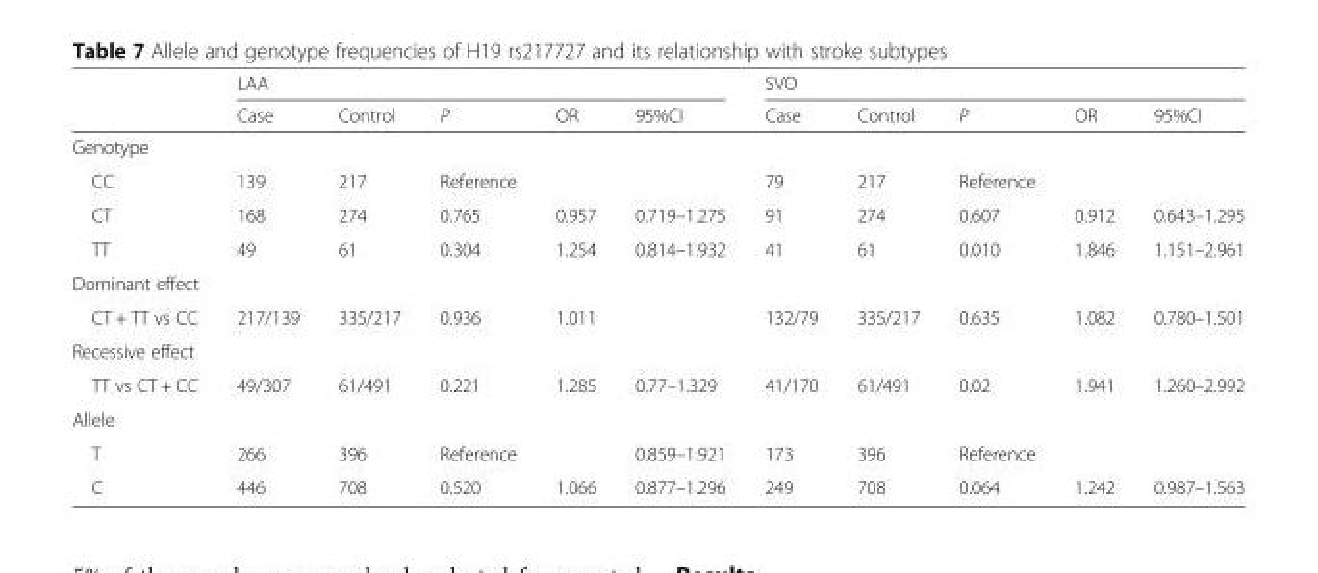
<table><thead><tr><td rowspan="2"></td><td colspan="5">LAA</td><td colspan="5">SVO</td></tr><tr><td>Case</td><td>Control</td><td>P</td><td>OR</td><td>95%CI</td><td>Case</td><td>Control</td><td>P</td><td>OR</td><td>95%CI</td></tr></thead><tbody><tr><td colspan="11">Genotype</td></tr><tr><td>CC</td><td>139</td><td>217</td><td>Reference</td><td></td><td></td><td>79</td><td>217</td><td>Reference</td><td></td><td></td></tr><tr><td>CT</td><td>168</td><td>274</td><td>0.765</td><td>0.957</td><td>0.719–1.275</td><td>91</td><td>274</td><td>0.607</td><td>0.912</td><td>0.643–1.295</td></tr><tr><td>TT</td><td>49</td><td>61</td><td>0.304</td><td>1.254</td><td>0.814–1.932</td><td>41</td><td>61</td><td>0.010</td><td>1.846</td><td>1.151–2.961</td></tr><tr><td colspan="11">Dominant effect</td></tr><tr><td>CT + TT vs CC</td><td>217/139</td><td>335/217</td><td>0.936</td><td>1.011</td><td></td><td>132/79</td><td>335/217</td><td>0.635</td><td>1.082</td><td>0.780–1.501</td></tr><tr><td colspan="11">Recessive effect</td></tr><tr><td>TT vs CT + CC</td><td>49/307</td><td>61/491</td><td>0.221</td><td>1.285</td><td>0.77–1.329</td><td>41/170</td><td>61/491</td><td>0.02</td><td>1.941</td><td>1.260–2.992</td></tr><tr><td colspan="11">Allele</td></tr><tr><td>T</td><td>266</td><td>396</td><td>Reference</td><td></td><td>0.859–1.921</td><td>173</td><td>396</td><td>Reference</td><td></td><td></td></tr><tr><td>C</td><td>446</td><td>708</td><td>0.520</td><td>1.066</td><td>0.877–1.296</td><td>249</td><td>708</td><td>0.064</td><td>1.242</td><td>0.987–1.563</td></tr></tbody></table>